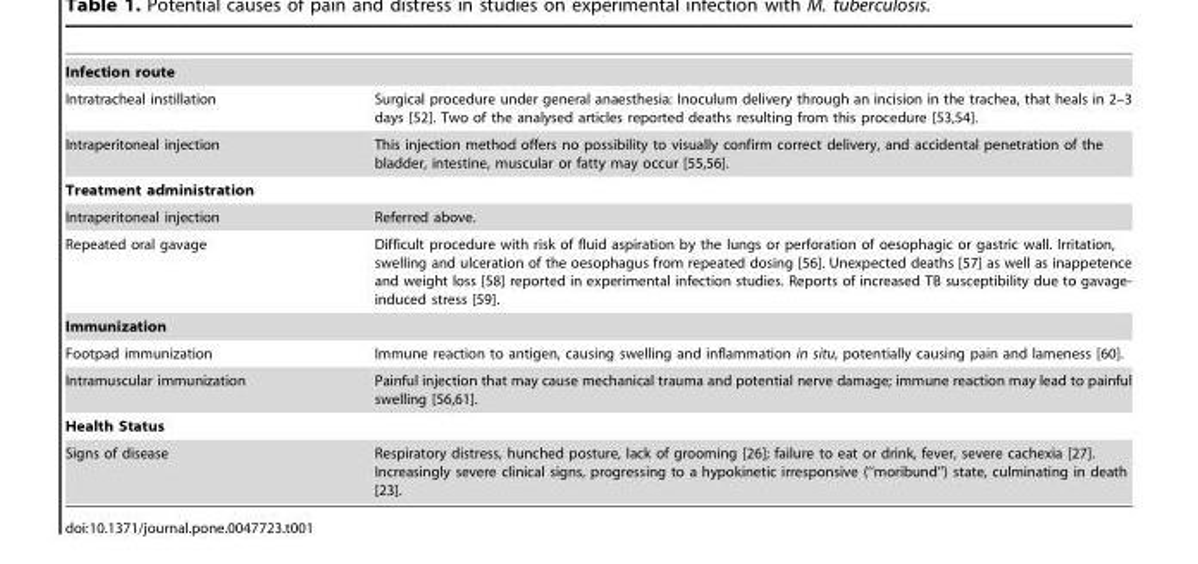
<table><tbody><tr><td colspan="2">Infection route</td></tr><tr><td>Intratracheal instillation</td><td>Surgical procedure under general anaesthesia: Inoculum delivery through an incision in the trachea, that heals in 2–3 days [52]. Two of the analysed articles reported deaths resulting from this procedure [53,54].</td></tr><tr><td>Intraperitoneal injection</td><td>This injection method offers no possibility to visually confirm correct delivery, and accidental penetration of the bladder, intestine, muscular or fatty may occur [55,56].</td></tr><tr><td colspan="2">Treatment administration</td></tr><tr><td>Intraperitoneal injection</td><td>Referred above.</td></tr><tr><td>Repeated oral gavage</td><td>Difficult procedure with risk of fluid aspiration by the lungs or perforation of oesophagic or gastric wall. Irritation, swelling and ulceration of the oesophagus from repeated dosing [56]. Unexpected deaths [57] as well as inappetence and weight loss [58] reported in experimental infection studies. Reports of increased TB susceptibility due to gavage- induced stress [59].</td></tr><tr><td colspan="2">Immunization</td></tr><tr><td>Footpad immunization</td><td>Immune reaction to antigen, causing swelling and inflammation in situ, potentially causing pain and lameness [60].</td></tr><tr><td>Intramuscular immunization</td><td>Painful injection that may cause mechanical trauma and potential nerve damage; immune reaction may lead to painful swelling [56,61].</td></tr><tr><td colspan="2">Health Status</td></tr><tr><td>Signs of disease</td><td>Respiratory distress, hunched posture, lack of grooming [26]; failure to eat or drink, fever, severe cachexia [27]. Increasingly severe clinical signs, progressing to a hypokinetic irresponsive (‘‘moribund’’) state, culminating in death [23].</td></tr></tbody></table>